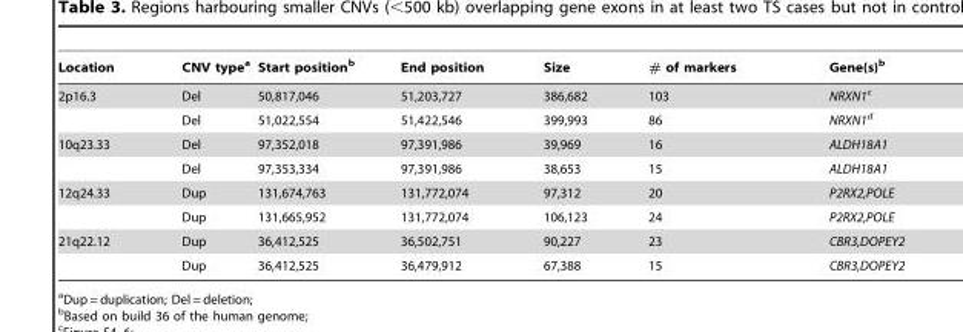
<table><thead><tr><td>Location</td><td>CNV type<sup>a</sup></td><td>Start position<sup>b</sup></td><td>End position</td><td>Size</td><td># of markers</td><td>Gene(s)<sup>b</sup></td></tr></thead><tbody><tr><td rowspan="2">2p16.3</td><td>Del</td><td>50,817,046</td><td>51,203,727</td><td>386,682</td><td>103</td><td>NRXN1c</td></tr><tr><td>Del</td><td>51,022,554</td><td>51,422,546</td><td>399,993</td><td>86</td><td>NRXN1d</td></tr><tr><td rowspan="2">10q23.33</td><td>Del</td><td>97,352,018</td><td>97,391,986</td><td>39,969</td><td>16</td><td>ALDH18A1</td></tr><tr><td>Del</td><td>97,353,334</td><td>97,391,986</td><td>38,653</td><td>15</td><td>ALDH18A1</td></tr><tr><td rowspan="2">12q24.33</td><td>Dup</td><td>131,674,763</td><td>131,772,074</td><td>97,312</td><td>20</td><td>P2RX2,POLE</td></tr><tr><td>Dup</td><td>131,665,952</td><td>131,772,074</td><td>106,123</td><td>24</td><td>P2RX2,POLE</td></tr><tr><td rowspan="2">21q22.12</td><td>Dup</td><td>36,412,525</td><td>36,502,751</td><td>90,227</td><td>23</td><td>CBR3,DOPEY2</td></tr><tr><td>Dup</td><td>36,412,525</td><td>36,479,912</td><td>67,388</td><td>15</td><td>CBR3,DOPEY2</td></tr></tbody></table>